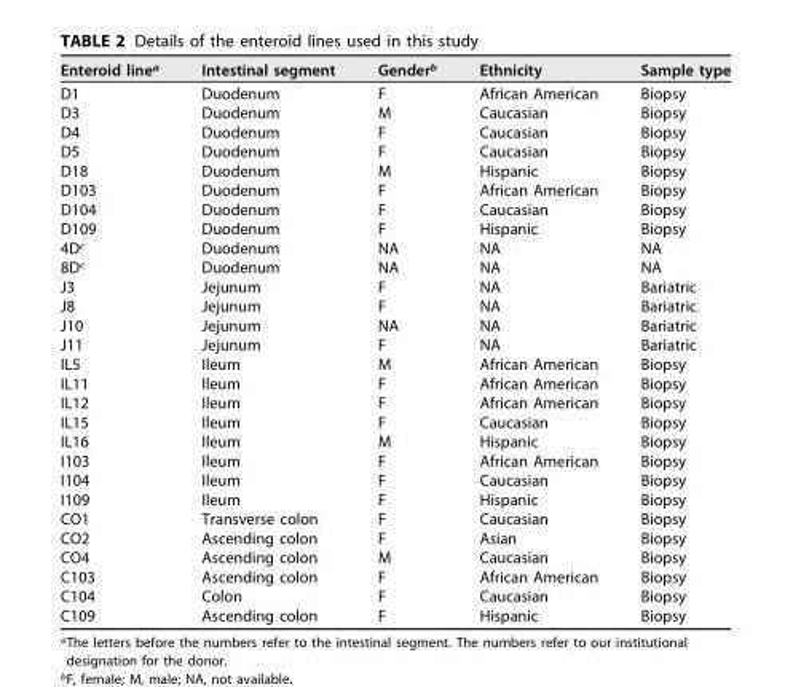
<table><thead><tr><td>Enteroid line<sup>a</sup></td><td>Intestinal segment</td><td>Gender<sup>b</sup></td><td>Ethnicity</td><td>Sample type</td></tr></thead><tbody><tr><td>D1</td><td>Duodenum</td><td>F</td><td>African American</td><td>Biopsy</td></tr><tr><td>D3</td><td>Duodenum</td><td>M</td><td>Caucasian</td><td>Biopsy</td></tr><tr><td>D4</td><td>Duodenum</td><td>F</td><td>Caucasian</td><td>Biopsy</td></tr><tr><td>D5</td><td>Duodenum</td><td>F</td><td>Caucasian</td><td>Biopsy</td></tr><tr><td>D18</td><td>Duodenum</td><td>M</td><td>Hispanic</td><td>Biopsy</td></tr><tr><td>D103</td><td>Duodenum</td><td>F</td><td>African American</td><td>Biopsy</td></tr><tr><td>D104</td><td>Duodenum</td><td>F</td><td>Caucasian</td><td>Biopsy</td></tr><tr><td>D109</td><td>Duodenum</td><td>F</td><td>Hispanic</td><td>Biopsy</td></tr><tr><td>4D<sup>c</sup></td><td>Duodenum</td><td>NA</td><td>NA</td><td>NA</td></tr><tr><td>8D<sup>c</sup></td><td>Duodenum</td><td>NA</td><td>NA</td><td>NA</td></tr><tr><td>J3</td><td>Jejunum</td><td>F</td><td>NA</td><td>Bariatric</td></tr><tr><td>J8</td><td>Jejunum</td><td>F</td><td>NA</td><td>Bariatric</td></tr><tr><td>J10</td><td>Jejunum</td><td>NA</td><td>NA</td><td>Bariatric</td></tr><tr><td>J11</td><td>Jejunum</td><td>F</td><td>NA</td><td>Bariatric</td></tr><tr><td>IL5</td><td>Ileum</td><td>M</td><td>African American</td><td>Biopsy</td></tr><tr><td>IL11</td><td>Ileum</td><td>F</td><td>African American</td><td>Biopsy</td></tr><tr><td>IL12</td><td>Ileum</td><td>F</td><td>African American</td><td>Biopsy</td></tr><tr><td>IL15</td><td>Ileum</td><td>F</td><td>Caucasian</td><td>Biopsy</td></tr><tr><td>IL16</td><td>Ileum</td><td>M</td><td>Hispanic</td><td>Biopsy</td></tr><tr><td>I103</td><td>Ileum</td><td>F</td><td>African American</td><td>Biopsy</td></tr><tr><td>I104</td><td>Ileum</td><td>F</td><td>Caucasian</td><td>Biopsy</td></tr><tr><td>I109</td><td>Ileum</td><td>F</td><td>Hispanic</td><td>Biopsy</td></tr><tr><td>CO1</td><td>Transverse colon</td><td>F</td><td>Caucasian</td><td>Biopsy</td></tr><tr><td>CO2</td><td>Ascending colon</td><td>F</td><td>Asian</td><td>Biopsy</td></tr><tr><td>CO4</td><td>Ascending colon</td><td>M</td><td>Caucasian</td><td>Biopsy</td></tr><tr><td>C103</td><td>Ascending colon</td><td>F</td><td>African American</td><td>Biopsy</td></tr><tr><td>C104</td><td>Colon</td><td>F</td><td>Caucasian</td><td>Biopsy</td></tr><tr><td>C109</td><td>Ascending colon</td><td>F</td><td>Hispanic</td><td>Biopsy</td></tr></tbody></table>